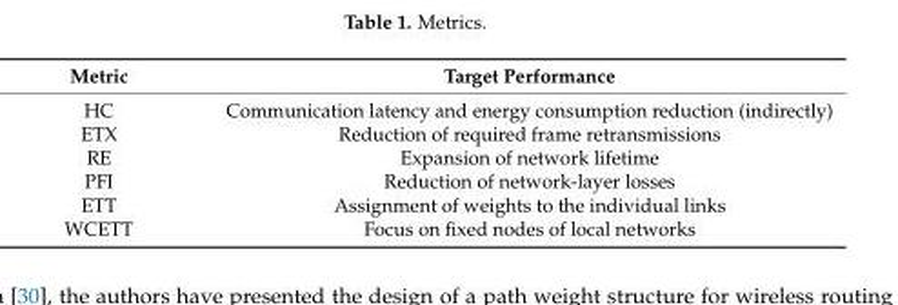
<table><thead><tr><td>Metric</td><td>Target Performance</td></tr></thead><tbody><tr><td>HC</td><td>Communication latency and energy consumption reduction (indirectly)</td></tr><tr><td>ETX</td><td>Reduction of required frame retransmissions</td></tr><tr><td>RE</td><td>Expansion of network lifetime</td></tr><tr><td>PFI</td><td>Reduction of network-layer losses</td></tr><tr><td>ETT</td><td>Assignment of weights to the individual links</td></tr><tr><td>WCETT</td><td>Focus on fixed nodes of local networks</td></tr></tbody></table>